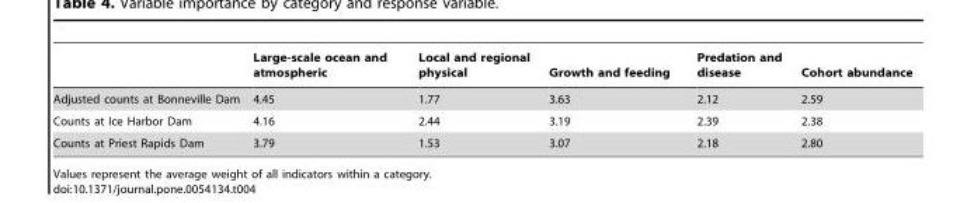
<table><thead><tr><td></td><td>Large-scale ocean and atmospheric</td><td>Local and regional physical</td><td>Growth and feeding</td><td>Predation and disease</td><td>Cohort abundance</td></tr></thead><tbody><tr><td>Adjusted counts at Bonneville Dam</td><td>4.45</td><td>1.77</td><td>3.63</td><td>2.12</td><td>2.59</td></tr><tr><td>Counts at Ice Harbor Dam</td><td>4.16</td><td>2.44</td><td>3.19</td><td>2.39</td><td>2.38</td></tr><tr><td>Counts at Priest Rapids Dam</td><td>3.79</td><td>1.53</td><td>3.07</td><td>2.18</td><td>2.80</td></tr></tbody></table>